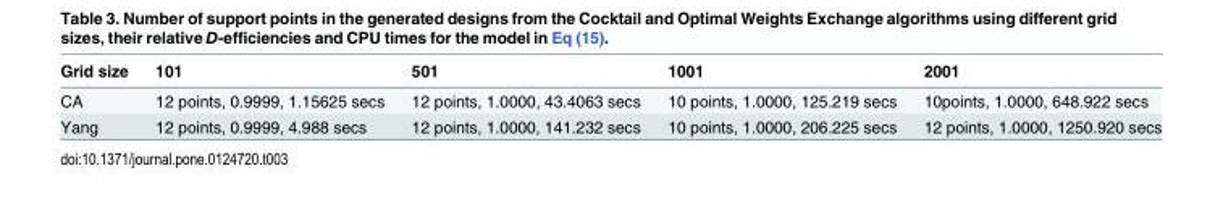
<table><thead><tr><td>Grid size</td><td>101</td><td>501</td><td>1001</td><td>2001</td></tr></thead><tbody><tr><td>CA</td><td>12 points, 0.9999, 1.15625 secs</td><td>12 points, 1.0000, 43.4063 secs</td><td>10 points, 1.0000, 125.219 secs</td><td>10points, 1.0000, 648.922 secs</td></tr><tr><td>Yang</td><td>12 points, 0.9999, 4.988 secs</td><td>12 points, 1.0000, 141.232 secs</td><td>10 points, 1.0000, 206.225 secs</td><td>12 points, 1.0000, 1250.920 secs</td></tr></tbody></table>